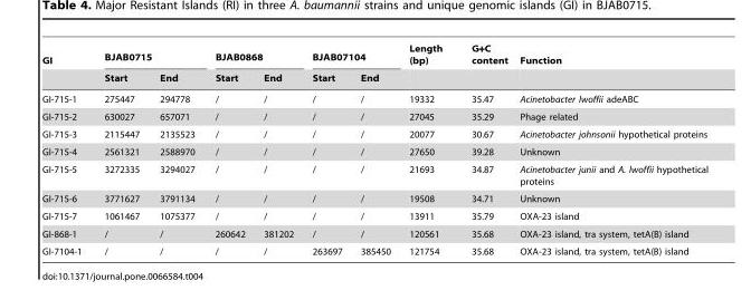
<table><thead><tr><td rowspan="2">GI</td><td colspan="2">BJAB0715</td><td colspan="2">BJAB0868</td><td colspan="2">BJAB07104</td><td rowspan="2">Length (bp)</td><td rowspan="2">G+C content</td><td rowspan="2">Function</td></tr><tr><td>Start</td><td>End</td><td>Start</td><td>End</td><td>Start</td><td>End</td></tr></thead><tbody><tr><td>GI-715-1</td><td>275447</td><td>294778</td><td>/</td><td>/</td><td>/</td><td>/</td><td>19332</td><td>35.47</td><td>Acinetobacter lwoffii adeABC</td></tr><tr><td>GI-715-2</td><td>630027</td><td>657071</td><td>/</td><td>/</td><td>/</td><td>/</td><td>27045</td><td>35.29</td><td>Phage related</td></tr><tr><td>GI-715-3</td><td>2115447</td><td>2135523</td><td>/</td><td>/</td><td>/</td><td>/</td><td>20077</td><td>30.67</td><td>Acinetobacter johnsonii hypothetical proteins</td></tr><tr><td>GI-715-4</td><td>2561321</td><td>2588970</td><td>/</td><td>/</td><td>/</td><td>/</td><td>27650</td><td>39.28</td><td>Unknown</td></tr><tr><td>GI-715-5</td><td>3272335</td><td>3294027</td><td>/</td><td>/</td><td>/</td><td>/</td><td>21693</td><td>34.87</td><td>Acinetobacter junii and A. lwoffii hypothetical proteins</td></tr><tr><td>GI-715-6</td><td>3771627</td><td>3791134</td><td>/</td><td>/</td><td>/</td><td>/</td><td>19508</td><td>34.71</td><td>Unknown</td></tr><tr><td>GI-715-7</td><td>1061467</td><td>1075377</td><td>/</td><td>/</td><td>/</td><td>/</td><td>13911</td><td>35.79</td><td>OXA-23 island</td></tr><tr><td>GI-868-1</td><td>/</td><td>/</td><td>260642</td><td>381202</td><td>/</td><td>/</td><td>120561</td><td>35.68</td><td>OXA-23 island, tra system, tetA(B) island</td></tr><tr><td>GI-7104-1</td><td>/</td><td>/</td><td>/</td><td>/</td><td>263697</td><td>385450</td><td>121754</td><td>35.68</td><td>OXA-23 island, tra system, tetA(B) island</td></tr></tbody></table>